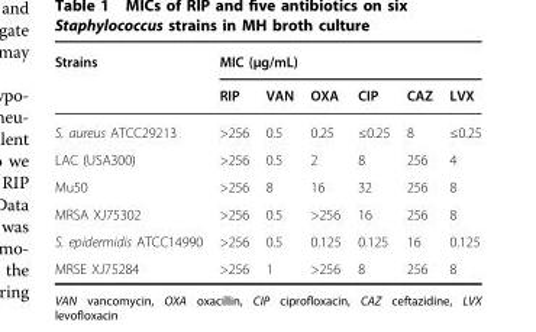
<table><thead><tr><td rowspan="2">Strains</td><td colspan="6">MIC (μg/mL)</td></tr><tr><td>RIP</td><td>VAN</td><td>OXA</td><td>CIP</td><td>CAZ</td><td>LVX</td></tr></thead><tbody><tr><td>S. aureus ATCC29213</td><td>&gt;256</td><td>0.5</td><td>0.25</td><td>≤0.25</td><td>8</td><td>≤0.25</td></tr><tr><td>LAC (USA300)</td><td>&gt;256</td><td>0.5</td><td>2</td><td>8</td><td>256</td><td>4</td></tr><tr><td>Mu50</td><td>&gt;256</td><td>8</td><td>16</td><td>32</td><td>256</td><td>8</td></tr><tr><td>MRSA XJ75302</td><td>&gt;256</td><td>0.5</td><td>&gt;256</td><td>16</td><td>256</td><td>8</td></tr><tr><td>S. epidermidis ATCC14990</td><td>&gt;256</td><td>0.5</td><td>0.125</td><td>0.125</td><td>16</td><td>0.125</td></tr><tr><td>MRSE XJ75284</td><td>&gt;256</td><td>1</td><td>&gt;256</td><td>8</td><td>256</td><td>8</td></tr></tbody></table>